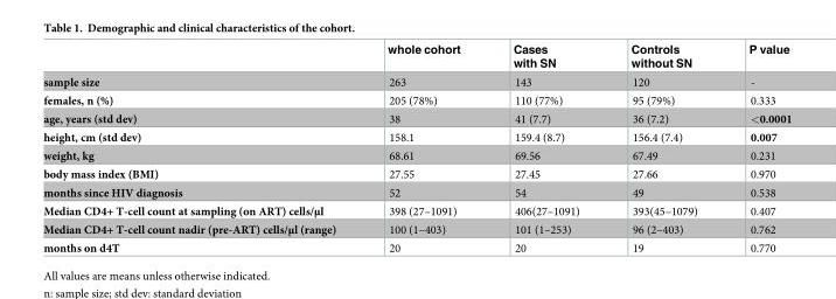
<table><thead><tr><td></td><td>whole cohort</td><td>Cases with SN</td><td>Controls without SN</td><td>P value</td></tr></thead><tbody><tr><td>sample size</td><td>263</td><td>143</td><td>120</td><td>-</td></tr><tr><td>females, n (%)</td><td>205 (78%)</td><td>110 (77%)</td><td>95 (79%)</td><td>0.333</td></tr><tr><td>age, years (std dev)</td><td>38</td><td>41 (7.7)</td><td>36 (7.2)</td><td>&lt;0.0001</td></tr><tr><td>height, cm (std dev)</td><td>158.1</td><td>159.4 (8.7)</td><td>156.4 (7.4)</td><td>0.007</td></tr><tr><td>weight, kg</td><td>68.61</td><td>69.56</td><td>67.49</td><td>0.231</td></tr><tr><td>body mass index (BMI)</td><td>27.55</td><td>27.45</td><td>27.66</td><td>0.970</td></tr><tr><td>months since HIV diagnosis</td><td>52</td><td>54</td><td>49</td><td>0.538</td></tr><tr><td>Median CD4+ T-cell count at sampling (on ART) cells/μl</td><td>398 (27–1091)</td><td>406(27–1091)</td><td>393(45–1079)</td><td>0.407</td></tr><tr><td>Median CD4+ T-cell count nadir (pre-ART) cells/μl (range)</td><td>100 (1–403)</td><td>101 (1–253)</td><td>96 (2–403)</td><td>0.762</td></tr><tr><td>months on d4T</td><td>20</td><td>20</td><td>19</td><td>0.770</td></tr></tbody></table>